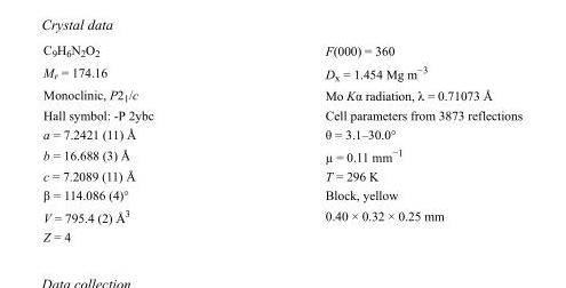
<table><tbody><tr><td>C<sub>9</sub>H<sub>6</sub>N<sub>2</sub>O<sub>2</sub></td><td>F(000) = 360</td></tr><tr><td>M<sub>r</sub> = 174.16</td><td>D<sub>x</sub> = 1.454 Mg m<sup>−3</sup></td></tr><tr><td>Monoclinic, P2<sub>1</sub>/c</td><td>Mo Kα radiation, λ = 0.71073 Å</td></tr><tr><td>Hall symbol: -P 2ybc</td><td>Cell parameters from 3873 reflections</td></tr><tr><td>a = 7.2421 (11) Å</td><td>θ = 3.1–30.0°</td></tr><tr><td>b = 16.688 (3) Å</td><td>µ = 0.11 mm<sup>−1</sup></td></tr><tr><td>c = 7.2089 (11) Å</td><td>T = 296 K</td></tr><tr><td>β = 114.086 (4)°</td><td>Block, yellow</td></tr><tr><td>V = 795.4 (2) Å<sup>3</sup></td><td>0.40 × 0.32 × 0.25 mm</td></tr><tr><td>Z = 4</td><td></td></tr></tbody></table>